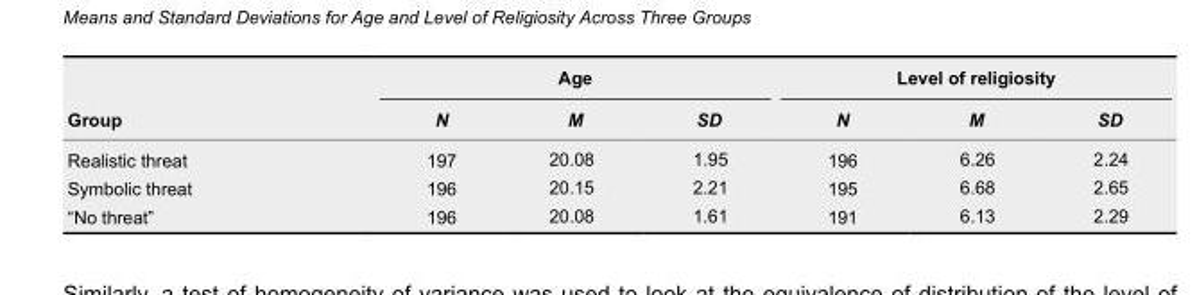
<table><thead><tr><td rowspan="2">Group</td><td colspan="3">Age</td><td colspan="3">Level of religiosity</td></tr><tr><td>N</td><td>M</td><td>SD</td><td>N</td><td>M</td><td>SD</td></tr></thead><tbody><tr><td>Realistic threat</td><td>197</td><td>20.08</td><td>1.95</td><td>196</td><td>6.26</td><td>2.24</td></tr><tr><td>Symbolic threat</td><td>196</td><td>20.15</td><td>2.21</td><td>195</td><td>6.68</td><td>2.65</td></tr><tr><td>“No threat”</td><td>196</td><td>20.08</td><td>1.61</td><td>191</td><td>6.13</td><td>2.29</td></tr></tbody></table>